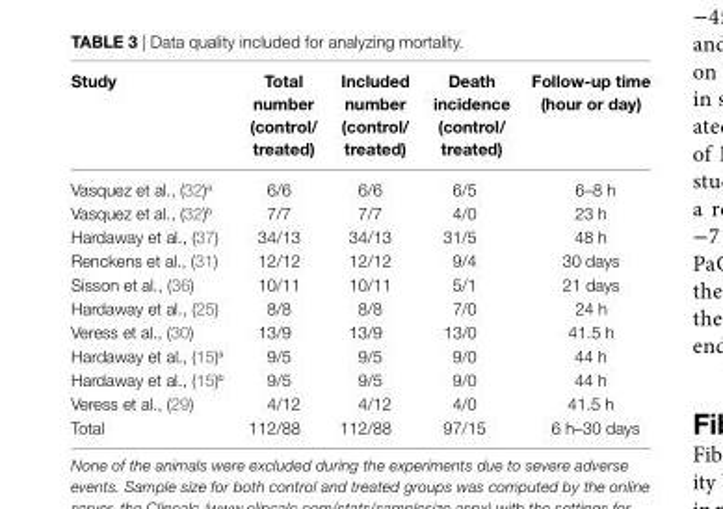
<table><thead><tr><td>Study</td><td>total number (control/ treated)</td><td>included number (control/ treated)</td><td>Death incidence (control/ treated)</td><td>Follow-up time (hour or day)</td></tr></thead><tbody><tr><td>Vasquez et al., (32)<sup>a</sup></td><td>6/6</td><td>6/6</td><td>6/5</td><td>6–8 h</td></tr><tr><td>Vasquez et al., (32)<sup>b</sup></td><td>7/7</td><td>7/7</td><td>4/0</td><td>23 h</td></tr><tr><td>Hardaway et al., (37)</td><td>34/13</td><td>34/13</td><td>31/5</td><td>48 h</td></tr><tr><td>Renckens et al., (31)</td><td>12/12</td><td>12/12</td><td>9/4</td><td>30 days</td></tr><tr><td>Sisson et al., (36)</td><td>10/11</td><td>10/11</td><td>5/1</td><td>21 days</td></tr><tr><td>Hardaway et al., (25)</td><td>8/8</td><td>8/8</td><td>7/0</td><td>24 h</td></tr><tr><td>Veress et al., (30)</td><td>13/9</td><td>13/9</td><td>13/0</td><td>41.5 h</td></tr><tr><td>Hardaway et al., (15)<sup>a</sup></td><td>9/5</td><td>9/5</td><td>9/0</td><td>44 h</td></tr><tr><td>Hardaway et al., (15)<sup>b</sup></td><td>9/5</td><td>9/5</td><td>9/0</td><td>44 h</td></tr><tr><td>Veress et al., (29)</td><td>4/12</td><td>4/12</td><td>4/0</td><td>41.5 h</td></tr><tr><td>Total</td><td>112/88</td><td>112/88</td><td>97/15</td><td>6 h–30 days</td></tr></tbody></table>